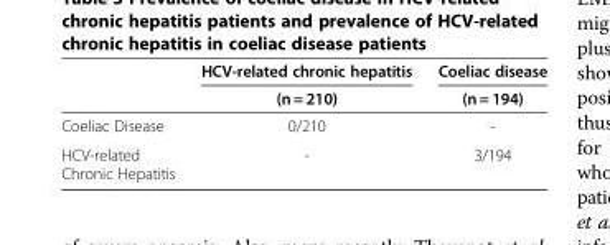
<table><thead><tr><td rowspan="2"></td><td rowspan="2">HCV-related chronic hepatitis (n = 210)</td><td rowspan="2">Coeliac disease (n = 194)</td></tr><tr></tr></thead><tbody><tr><td>Coeliac Disease</td><td>0/210</td><td>-</td></tr><tr><td>HCV-related Chronic Hepatitis</td><td>-</td><td>3/194</td></tr></tbody></table>